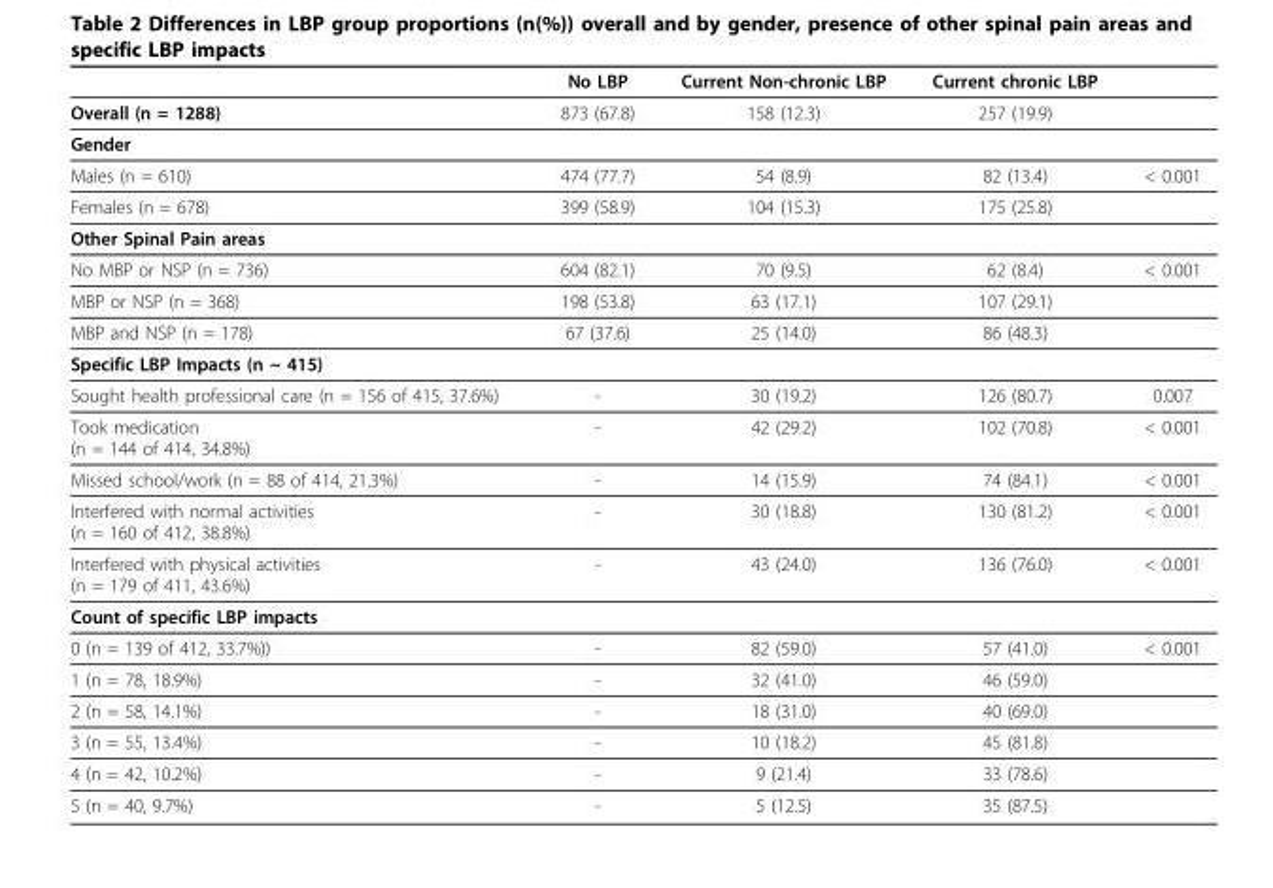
<table><thead><tr><td></td><td>No LBP</td><td>Current Non-chronic LBP</td><td>Current chronic LBP</td><td></td></tr></thead><tbody><tr><td>Overall (n = 1288)</td><td>873 (67.8)</td><td>158 (12.3)</td><td>257 (19.9)</td><td></td></tr><tr><td colspan="5">Gender</td></tr><tr><td>Males (n = 610)</td><td>474 (77.7)</td><td>54 (8.9)</td><td>82 (13.4)</td><td>&lt; 0.001</td></tr><tr><td>Females (n = 678)</td><td>399 (58.9)</td><td>104 (15.3)</td><td>175 (25.8)</td><td></td></tr><tr><td colspan="5">Other Spinal Pain areas</td></tr><tr><td>No MBP or NSP (n = 736)</td><td>604 (82.1)</td><td>70 (9.5)</td><td>62 (8.4)</td><td>&lt; 0.001</td></tr><tr><td>MBP or NSP (n = 368)</td><td>198 (53.8)</td><td>63 (17.1)</td><td>107 (29.1)</td><td></td></tr><tr><td>MBP and NSP (n = 178)</td><td>67 (37.6)</td><td>25 (14.0)</td><td>86 (48.3)</td><td></td></tr><tr><td colspan="5">Specific LBP Impacts (n ~ 415)</td></tr><tr><td>Sought health professional care (n = 156 of 415, 37.6%)</td><td>-</td><td>30 (19.2)</td><td>126 (80.7)</td><td>0.007</td></tr><tr><td>Took medication (n = 144 of 414, 34.8%)</td><td>-</td><td>42 (29.2)</td><td>102 (70.8)</td><td>&lt; 0.001</td></tr><tr><td>Missed school/work (n = 88 of 414, 21.3%)</td><td>-</td><td>14 (15.9)</td><td>74 (84.1)</td><td>&lt; 0.001</td></tr><tr><td>Interfered with normal activities (n = 160 of 412, 38.8%)</td><td>-</td><td>30 (18.8)</td><td>130 (81.2)</td><td>&lt; 0.001</td></tr><tr><td>Interfered with physical activities (n = 179 of 411, 43.6%)</td><td>-</td><td>43 (24.0)</td><td>136 (76.0)</td><td>&lt; 0.001</td></tr><tr><td colspan="5">Count of specific LBP impacts</td></tr><tr><td>0 (n = 139 of 412, 33.7%))</td><td>-</td><td>82 (59.0)</td><td>57 (41.0)</td><td>&lt; 0.001</td></tr><tr><td>1 (n = 78, 18.9%)</td><td>-</td><td>32 (41.0)</td><td>46 (59.0)</td><td></td></tr><tr><td>2 (n = 58, 14.1%)</td><td>-</td><td>18 (31.0)</td><td>40 (69.0)</td><td></td></tr><tr><td>3 (n = 55, 13.4%)</td><td>-</td><td>10 (18.2)</td><td>45 (81.8)</td><td></td></tr><tr><td>4 (n = 42, 10.2%)</td><td>-</td><td>9 (21.4)</td><td>33 (78.6)</td><td></td></tr><tr><td>5 (n = 40, 9.7%)</td><td>-</td><td>5 (12.5)</td><td>35 (87.5)</td><td></td></tr></tbody></table>